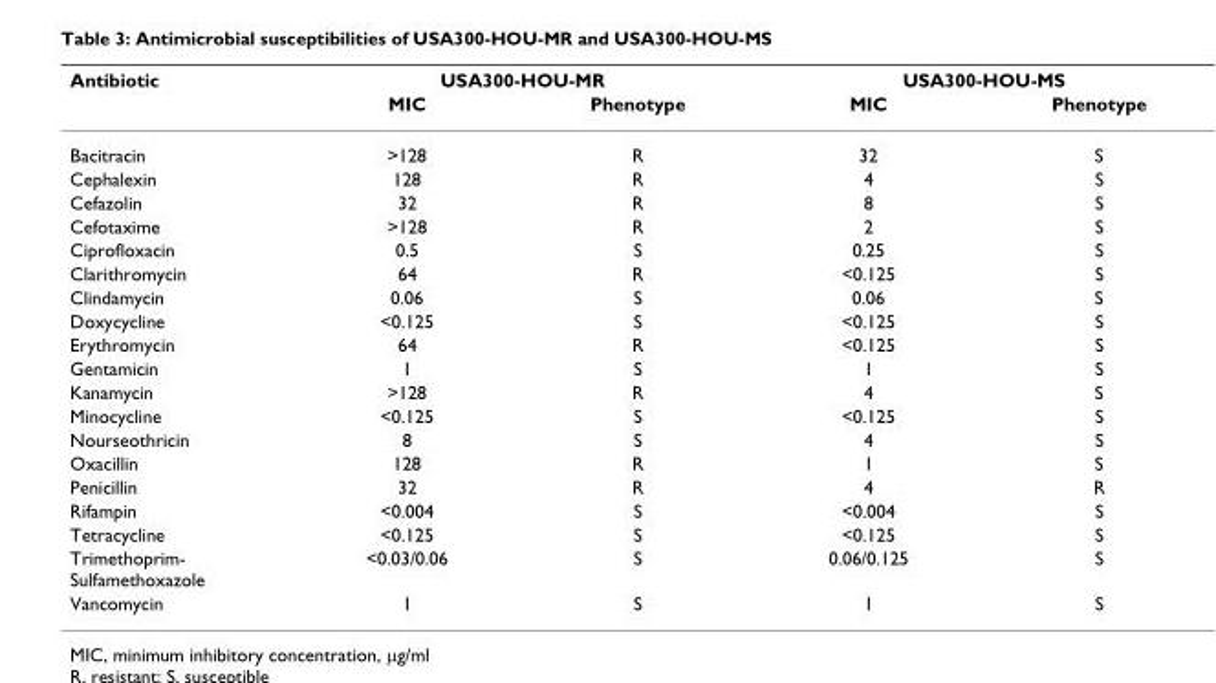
<table><thead><tr><td rowspan="2">Antibiotic</td><td colspan="2">USA300-HOU-MR</td><td colspan="2">USA300-HOU-MS</td></tr><tr><td>MIC</td><td>Phenotype</td><td>MIC</td><td>Phenotype</td></tr></thead><tbody><tr><td>Bacitracin</td><td>&gt;128</td><td>R</td><td>32</td><td>S</td></tr><tr><td>Cephalexin</td><td>128</td><td>R</td><td>4</td><td>S</td></tr><tr><td>Cefazolin</td><td>32</td><td>R</td><td>8</td><td>S</td></tr><tr><td>Cefotaxime</td><td>&gt;128</td><td>R</td><td>2</td><td>S</td></tr><tr><td>Ciprofloxacin</td><td>0.5</td><td>S</td><td>0.25</td><td>S</td></tr><tr><td>Clarithromycin</td><td>64</td><td>R</td><td>&lt;0.125</td><td>S</td></tr><tr><td>Clindamycin</td><td>0.06</td><td>S</td><td>0.06</td><td>S</td></tr><tr><td>Doxycycline</td><td>&lt;0.125</td><td>S</td><td>&lt;0.125</td><td>S</td></tr><tr><td>Erythromycin</td><td>64</td><td>R</td><td>&lt;0.125</td><td>S</td></tr><tr><td>Gentamicin</td><td>1</td><td>S</td><td>1</td><td>S</td></tr><tr><td>Kanamycin</td><td>&gt;128</td><td>R</td><td>4</td><td>S</td></tr><tr><td>Minocycline</td><td>&lt;0.125</td><td>S</td><td>&lt;0.125</td><td>S</td></tr><tr><td>Nourseothricin</td><td>8</td><td>S</td><td>4</td><td>S</td></tr><tr><td>Oxacillin</td><td>128</td><td>R</td><td>1</td><td>S</td></tr><tr><td>Penicillin</td><td>32</td><td>R</td><td>4</td><td>R</td></tr><tr><td>Rifampin</td><td>&lt;0.004</td><td>S</td><td>&lt;0.004</td><td>S</td></tr><tr><td>Tetracycline</td><td>&lt;0.125</td><td>S</td><td>&lt;0.125</td><td>S</td></tr><tr><td>Trimethoprim- Sulfamethoxazole</td><td>&lt;0.03/0.06</td><td>S</td><td>0.06/0.125</td><td>S</td></tr><tr><td>Vancomycin</td><td>1</td><td>S</td><td>1</td><td>S</td></tr></tbody></table>